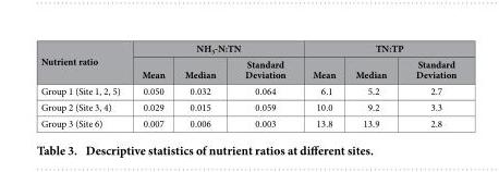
<table><thead><tr><td rowspan="2">Nutrient ratio</td><td colspan="3">NH<sub>3</sub>-N:TN</td><td colspan="3">TN:TP</td></tr><tr><td>Mean</td><td>Median</td><td>Standard Deviation</td><td>Mean</td><td>Median</td><td>Standard Deviation</td></tr></thead><tbody><tr><td>Group 1 (Site 1, 2, 5)</td><td>0.050</td><td>0.032</td><td>0.064</td><td>6.1</td><td>5.2</td><td>2.7</td></tr><tr><td>Group 2 (Site 3, 4)</td><td>0.029</td><td>0.015</td><td>0.059</td><td>10.0</td><td>9.2</td><td>3.3</td></tr><tr><td>Group 3 (Site 6)</td><td>0.007</td><td>0.006</td><td>0.003</td><td>13.8</td><td>13.9</td><td>2.8</td></tr></tbody></table>